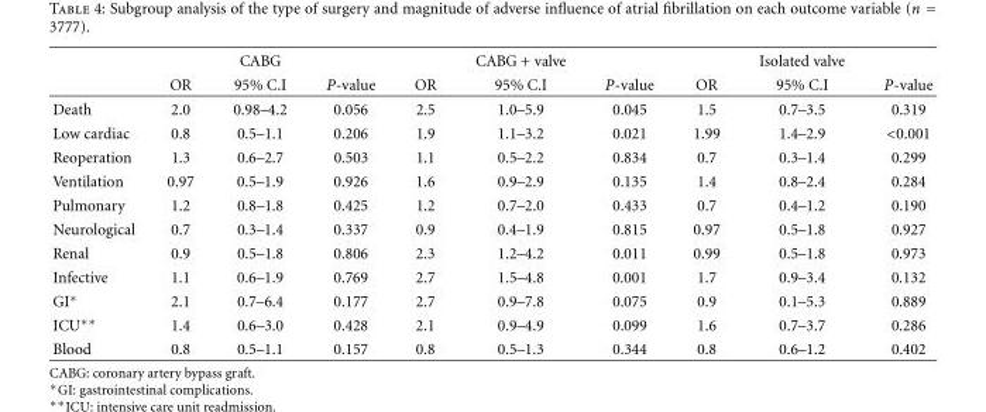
<table><thead><tr><td rowspan="2"></td><td rowspan="2">OR</td><td rowspan="2">CABG 95% C.I</td><td rowspan="2">P-value</td><td rowspan="2">OR</td><td rowspan="2">CABG + valve 95% C.I</td><td rowspan="2">P-value</td><td rowspan="2">OR</td><td rowspan="2">Isolated valve 95% C.I</td><td rowspan="2">P-value</td></tr><tr></tr></thead><tbody><tr><td>Death</td><td>2.0</td><td>0.98–4.2</td><td>0.056</td><td>2.5</td><td>1.0–5.9</td><td>0.045</td><td>1.5</td><td>0.7–3.5</td><td>0.319</td></tr><tr><td>Low cardiac</td><td>0.8</td><td>0.5–1.1</td><td>0.206</td><td>1.9</td><td>1.1–3.2</td><td>0.021</td><td>1.99</td><td>1.4–2.9</td><td>&lt;0.001</td></tr><tr><td>Reoperation</td><td>1.3</td><td>0.6–2.7</td><td>0.503</td><td>1.1</td><td>0.5–2.2</td><td>0.834</td><td>0.7</td><td>0.3–1.4</td><td>0.299</td></tr><tr><td>Ventilation</td><td>0.97</td><td>0.5–1.9</td><td>0.926</td><td>1.6</td><td>0.9–2.9</td><td>0.135</td><td>1.4</td><td>0.8–2.4</td><td>0.284</td></tr><tr><td>Pulmonary</td><td>1.2</td><td>0.8–1.8</td><td>0.425</td><td>1.2</td><td>0.7–2.0</td><td>0.433</td><td>0.7</td><td>0.4–1.2</td><td>0.190</td></tr><tr><td>Neurological</td><td>0.7</td><td>0.3–1.4</td><td>0.337</td><td>0.9</td><td>0.4–1.9</td><td>0.815</td><td>0.97</td><td>0.5–1.8</td><td>0.927</td></tr><tr><td>Renal</td><td>0.9</td><td>0.5–1.8</td><td>0.806</td><td>2.3</td><td>1.2–4.2</td><td>0.011</td><td>0.99</td><td>0.5–1.8</td><td>0.973</td></tr><tr><td>Infective</td><td>1.1</td><td>0.6–1.9</td><td>0.769</td><td>2.7</td><td>1.5–4.8</td><td>0.001</td><td>1.7</td><td>0.9–3.4</td><td>0.132</td></tr><tr><td>GI∗</td><td>2.1</td><td>0.7–6.4</td><td>0.177</td><td>2.7</td><td>0.9–7.8</td><td>0.075</td><td>0.9</td><td>0.1–5.3</td><td>0.889</td></tr><tr><td>ICU∗∗</td><td>1.4</td><td>0.6–3.0</td><td>0.428</td><td>2.1</td><td>0.9–4.9</td><td>0.099</td><td>1.6</td><td>0.7–3.7</td><td>0.286</td></tr><tr><td>Blood</td><td>0.8</td><td>0.5–1.1</td><td>0.157</td><td>0.8</td><td>0.5–1.3</td><td>0.344</td><td>0.8</td><td>0.6–1.2</td><td>0.402</td></tr></tbody></table>